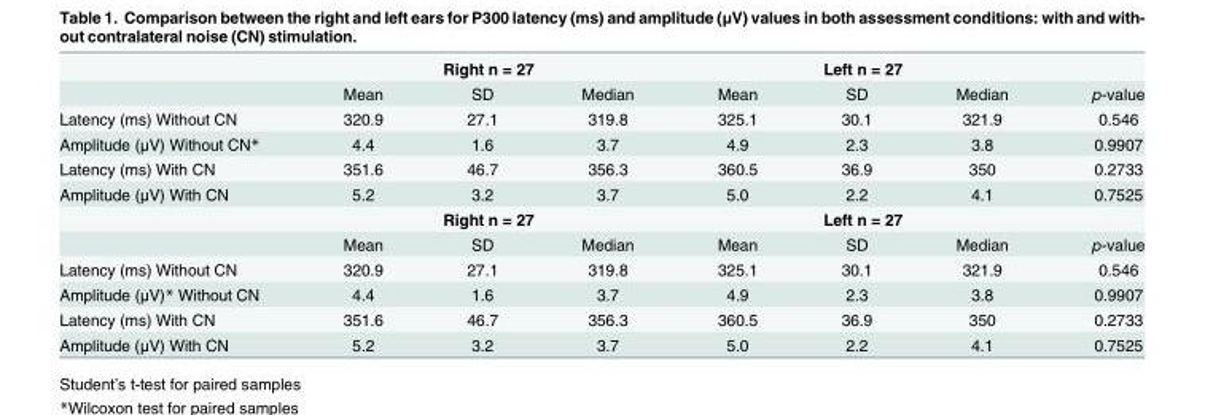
<table><thead><tr><td rowspan="2"></td><td colspan="3">Right n = 27</td><td colspan="3">Left n = 27</td><td rowspan="2">p-value</td></tr><tr><td>Mean</td><td>SD</td><td>Median</td><td>Mean</td><td>SD</td><td>Median</td></tr></thead><tbody><tr><td>Latency (ms) Without CN</td><td>320.9</td><td>27.1</td><td>319.8</td><td>325.1</td><td>30.1</td><td>321.9</td><td>0.546</td></tr><tr><td>Amplitude (μV) Without CN*</td><td>4.4</td><td>1.6</td><td>3.7</td><td>4.9</td><td>2.3</td><td>3.8</td><td>0.9907</td></tr><tr><td>Latency (ms) With CN</td><td>351.6</td><td>46.7</td><td>356.3</td><td>360.5</td><td>36.9</td><td>350</td><td>0.2733</td></tr><tr><td rowspan="3">Amplitude (μV) With CN</td><td>5.2</td><td>3.2</td><td>3.7</td><td>5.0</td><td>2.2</td><td>4.1</td><td>0.7525</td></tr><tr><td colspan="3">Right n = 27</td><td colspan="3">Left n = 27</td><td></td></tr><tr><td>Mean</td><td>SD</td><td>Median</td><td>Mean</td><td>SD</td><td>Median</td><td>p-value</td></tr><tr><td>Latency (ms) Without CN</td><td>320.9</td><td>27.1</td><td>319.8</td><td>325.1</td><td>30.1</td><td>321.9</td><td>0.546</td></tr><tr><td>Amplitude (μV)* Without CN</td><td>4.4</td><td>1.6</td><td>3.7</td><td>4.9</td><td>2.3</td><td>3.8</td><td>0.9907</td></tr><tr><td>Latency (ms) With CN</td><td>351.6</td><td>46.7</td><td>356.3</td><td>360.5</td><td>36.9</td><td>350</td><td>0.2733</td></tr><tr><td>Amplitude (μV) With CN</td><td>5.2</td><td>3.2</td><td>3.7</td><td>5.0</td><td>2.2</td><td>4.1</td><td>0.7525</td></tr></tbody></table>